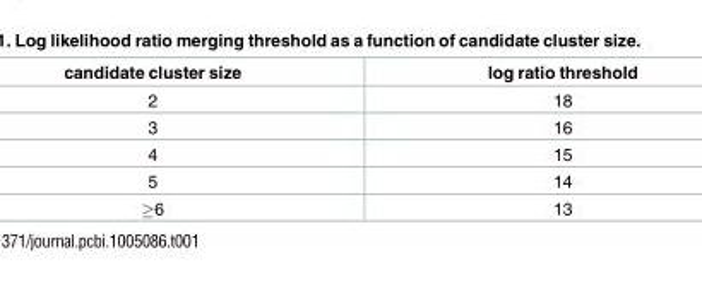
<table><thead><tr><td>candidate cluster size</td><td>log ratio threshold</td></tr></thead><tbody><tr><td>2</td><td>18</td></tr><tr><td>3</td><td>16</td></tr><tr><td>4</td><td>15</td></tr><tr><td>5</td><td>14</td></tr><tr><td>≥6</td><td>13</td></tr></tbody></table>